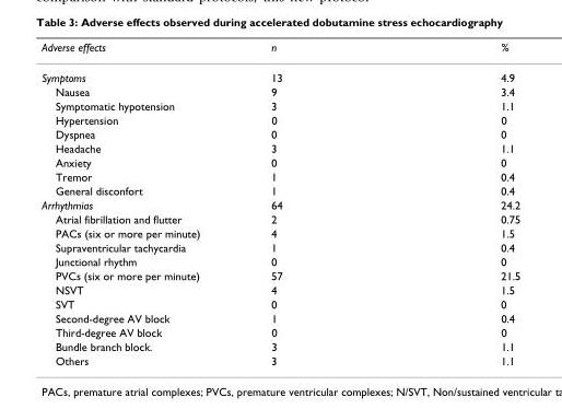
<table><thead><tr><td>Adverse effects</td><td>n</td><td>%</td></tr></thead><tbody><tr><td>Symptoms</td><td>13</td><td>4.9</td></tr><tr><td>Nausea</td><td>9</td><td>3.4</td></tr><tr><td>Symptomatic hypotension</td><td>3</td><td>1.1</td></tr><tr><td>Hypertension</td><td>0</td><td>0</td></tr><tr><td>Dyspnea</td><td>0</td><td>0</td></tr><tr><td>Headache</td><td>3</td><td>1.1</td></tr><tr><td>Anxiety</td><td>0</td><td>0</td></tr><tr><td>Tremor</td><td>1</td><td>0.4</td></tr><tr><td>General disconfort</td><td>1</td><td>0.4</td></tr><tr><td>Arrhythmias</td><td>64</td><td>24.2</td></tr><tr><td>Atrial fibrillation and flutter</td><td>2</td><td>0.75</td></tr><tr><td>PACs (six or more per minute)</td><td>4</td><td>1.5</td></tr><tr><td>Supraventricular tachycardia</td><td>1</td><td>0.4</td></tr><tr><td>Junctional rhythm</td><td>0</td><td>0</td></tr><tr><td>PVCs (six or more per minute)</td><td>57</td><td>21.5</td></tr><tr><td>NSVT</td><td>4</td><td>1.5</td></tr><tr><td>SVT</td><td>0</td><td>0</td></tr><tr><td>Second-degree AV block</td><td>1</td><td>0.4</td></tr><tr><td>Third-degree AV block</td><td>0</td><td>0</td></tr><tr><td>Bundle branch block.</td><td>3</td><td>1.1</td></tr><tr><td>Others</td><td>3</td><td>1.1</td></tr></tbody></table>